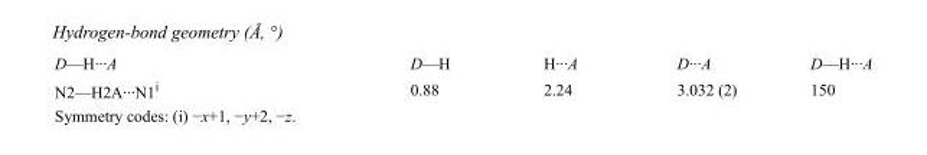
<table><tbody><tr><td>D—H···A</td><td>D—H</td><td>H···A</td><td>D···A</td><td>D—H···A</td></tr><tr><td>N2—H2A···N1<sup>i</sup></td><td>0.88</td><td>2.24</td><td>3.032 (2)</td><td>150</td></tr></tbody></table>